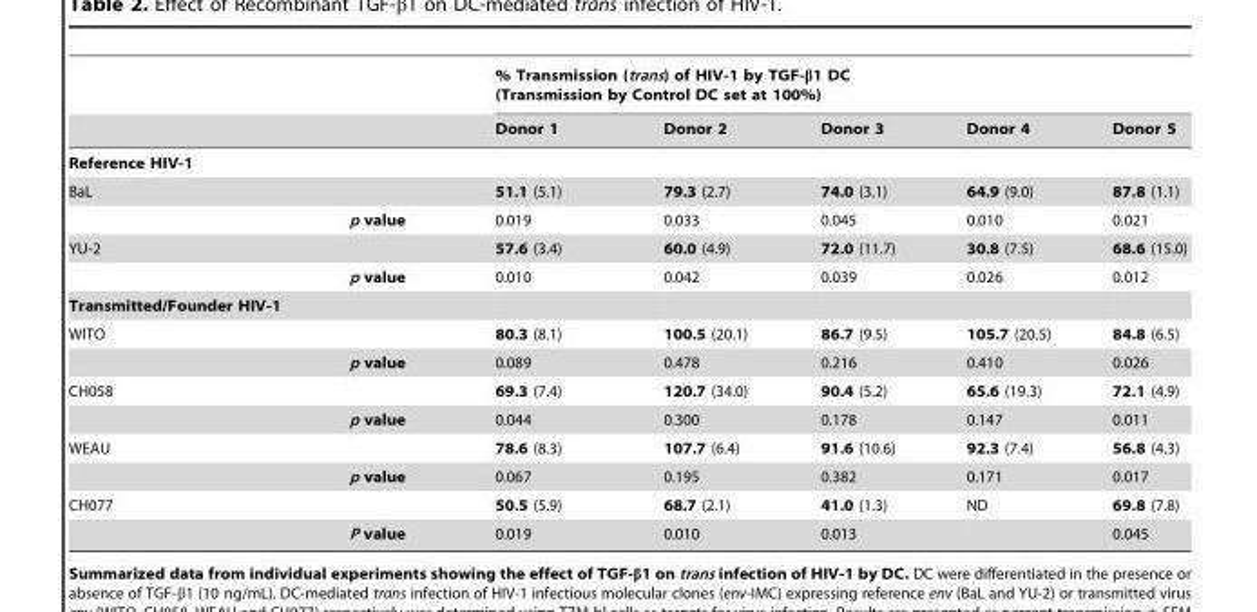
<table><thead><tr><td rowspan="2"></td><td rowspan="2"></td><td colspan="5">% Transmission (trans) of HIV-1 by TGF-β1 DC (Transmission by Control DC set at 100%)</td></tr><tr><td>Donor 1</td><td>Donor 2</td><td>Donor 3</td><td>Donor 4</td><td>Donor 5</td></tr></thead><tbody><tr><td colspan="7">Reference HIV-1</td></tr><tr><td rowspan="2">BaL</td><td></td><td>51.1 (5.1)</td><td>79.3 (2.7)</td><td>74.0 (3.1)</td><td>64.9 (9.0)</td><td>87.8 (1.1)</td></tr><tr><td>p value</td><td>0.019</td><td>0.033</td><td>0.045</td><td>0.010</td><td>0.021</td></tr><tr><td rowspan="2">YU-2</td><td></td><td>57.6 (3.4)</td><td>60.0 (4.9)</td><td>72.0 (11.7)</td><td>30.8 (7.5)</td><td>68.6 (15.0)</td></tr><tr><td>p value</td><td>0.010</td><td>0.042</td><td>0.039</td><td>0.026</td><td>0.012</td></tr><tr><td colspan="7">Transmitted/Founder HIV-1</td></tr><tr><td rowspan="2">WITO</td><td></td><td>80.3 (8.1)</td><td>100.5 (20.1)</td><td>86.7 (9.5)</td><td>105.7 (20.5)</td><td>84.8 (6.5)</td></tr><tr><td>p value</td><td>0.089</td><td>0.478</td><td>0.216</td><td>0.410</td><td>0.026</td></tr><tr><td rowspan="2">CH058</td><td></td><td>69.3 (7.4)</td><td>120.7 (34.0)</td><td>90.4 (5.2)</td><td>65.6 (19.3)</td><td>72.1 (4.9)</td></tr><tr><td>p value</td><td>0.044</td><td>0.300</td><td>0.178</td><td>0.147</td><td>0.011</td></tr><tr><td rowspan="2">WEAU</td><td></td><td>78.6 (8.3)</td><td>107.7 (6.4)</td><td>91.6 (10.6)</td><td>92.3 (7.4)</td><td>56.8 (4.3)</td></tr><tr><td>p value</td><td>0.067</td><td>0.195</td><td>0.382</td><td>0.171</td><td>0.017</td></tr><tr><td rowspan="2">CH077</td><td></td><td>50.5 (5.9)</td><td>68.7 (2.1)</td><td>41.0 (1.3)</td><td>ND</td><td>69.8 (7.8)</td></tr><tr><td>P value</td><td>0.019</td><td>0.010</td><td>0.013</td><td></td><td>0.045</td></tr></tbody></table>